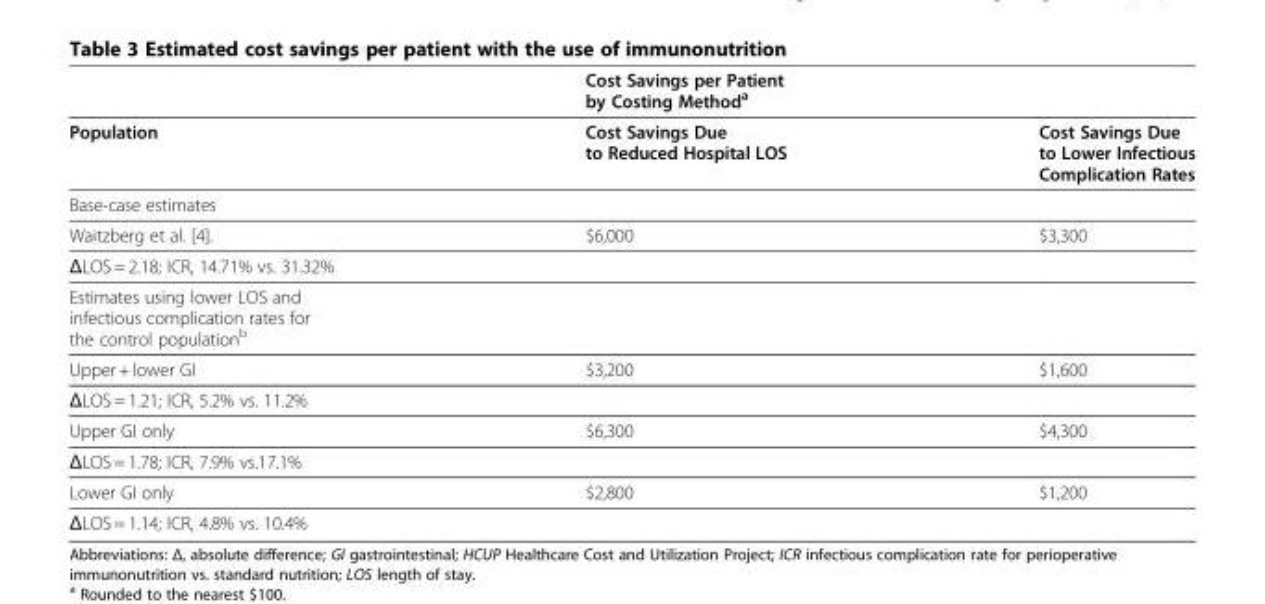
<table><thead><tr><td></td><td>Cost Savings per Patient by Costing Method<sup>a</sup></td><td></td></tr></thead><tbody><tr><td>Population</td><td>Cost Savings Due to Reduced Hospital LOS</td><td>Cost Savings Due to Lower Infectious Complication Rates</td></tr><tr><td colspan="3">Base-case estimates</td></tr><tr><td>Waitzberg et al. [4].</td><td>$6,000</td><td>$3,300</td></tr><tr><td colspan="3">ΔLOS = 2.18; ICR, 14.71% vs. 31.32%</td></tr><tr><td colspan="3">Estimates using lower LOS and infectious complication rates for the control population<sup>b</sup></td></tr><tr><td>Upper + lower GI</td><td>$3,200</td><td>$1,600</td></tr><tr><td colspan="3">ΔLOS = 1.21; ICR, 5.2% vs. 11.2%</td></tr><tr><td>Upper GI only</td><td>$6,300</td><td>$4,300</td></tr><tr><td colspan="3">ΔLOS = 1.78; ICR, 7.9% vs.17.1%</td></tr><tr><td>Lower GI only</td><td>$2,800</td><td>$1,200</td></tr><tr><td>ΔLOS = 1.14; ICR, 4.8% vs. 10.4%</td><td></td><td></td></tr></tbody></table>